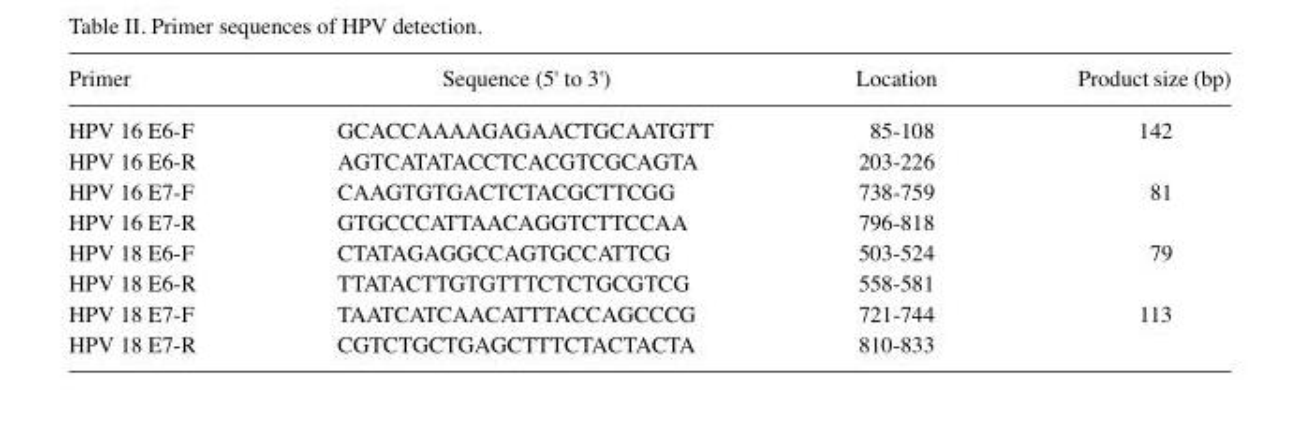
<table><thead><tr><td>Primer</td><td>Sequence (5&#x27; to 3&#x27;)</td><td>Location</td><td>Product size (bp)</td></tr></thead><tbody><tr><td>HPV 16 E6-F</td><td>GCACCAAAAGAGAACTGCAATGTT</td><td>85-108</td><td>142</td></tr><tr><td>HPV 16 E6-R</td><td>AGTCATATACCTCACGTCGCAGTA</td><td>203-226</td><td></td></tr><tr><td>HPV 16 E7-F</td><td>CAAGTGTGACTCTACGCTTCGG</td><td>738-759</td><td>81</td></tr><tr><td>HPV 16 E7-R</td><td>GTGCCCATTAACAGGTCTTCCAA</td><td>796-818</td><td></td></tr><tr><td>HPV 18 E6-F</td><td>CTATAGAGGCCAGTGCCATTCG</td><td>503-524</td><td>79</td></tr><tr><td>HPV 18 E6-R</td><td>TTATACTTGTGTTTCTCTGCGTCG</td><td>558-581</td><td></td></tr><tr><td>HPV 18 E7-F</td><td>TAATCATCAACATTTACCAGCCCG</td><td>721-744</td><td>113</td></tr><tr><td>HPV 18 E7-R</td><td>CGTCTGCTGAGCTTTCTACTACTA</td><td>810-833</td><td></td></tr></tbody></table>